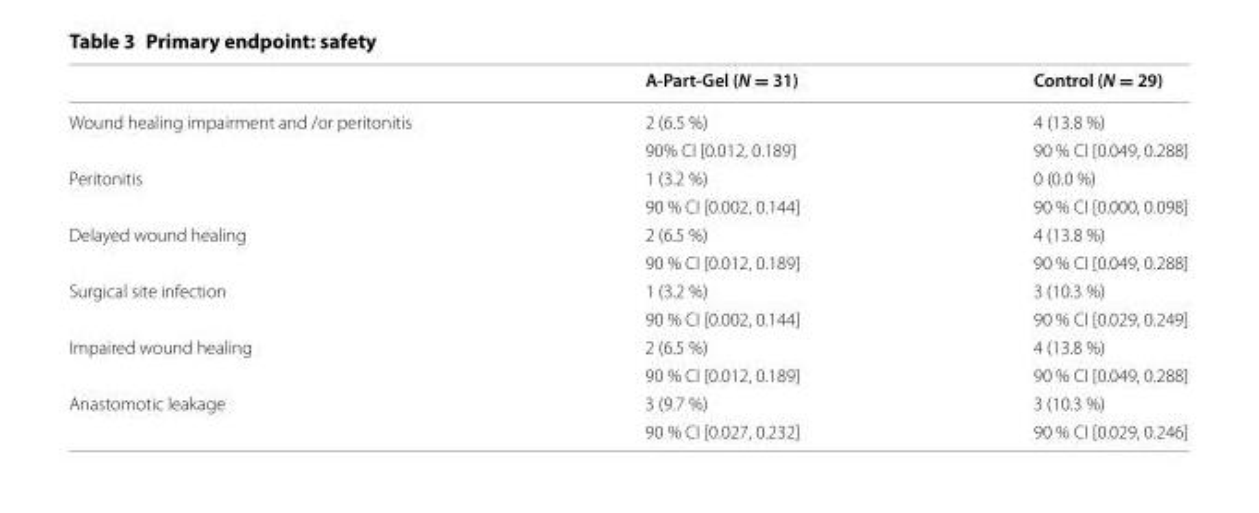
<table><thead><tr><td></td><td>A-Part-Gel (N = 31)</td><td>Control (N = 29)</td></tr></thead><tbody><tr><td rowspan="2">Wound healing impairment and /or peritonitis</td><td>2 (6.5 %)</td><td>4 (13.8 %)</td></tr><tr><td>90% CI [0.012, 0.189]</td><td>90 % CI [0.049, 0.288]</td></tr><tr><td rowspan="2">Peritonitis</td><td>1 (3.2 %)</td><td>0 (0.0 %)</td></tr><tr><td>90 % CI [0.002, 0.144]</td><td>90 % CI [0.000, 0.098]</td></tr><tr><td rowspan="2">Delayed wound healing</td><td>2 (6.5 %)</td><td>4 (13.8 %)</td></tr><tr><td>90 % CI [0.012, 0.189]</td><td>90 % CI [0.049, 0.288]</td></tr><tr><td rowspan="2">Surgical site infection</td><td>1 (3.2 %)</td><td>3 (10.3 %)</td></tr><tr><td>90 % CI [0.002, 0.144]</td><td>90 % CI [0.029, 0.249]</td></tr><tr><td rowspan="2">Impaired wound healing</td><td>2 (6.5 %)</td><td>4 (13.8 %)</td></tr><tr><td>90 % CI [0.012, 0.189]</td><td>90 % CI [0.049, 0.288]</td></tr><tr><td rowspan="2">Anastomotic leakage</td><td>3 (9.7 %)</td><td>3 (10.3 %)</td></tr><tr><td>90 % CI [0.027, 0.232]</td><td>90 % CI [0.029, 0.246]</td></tr></tbody></table>